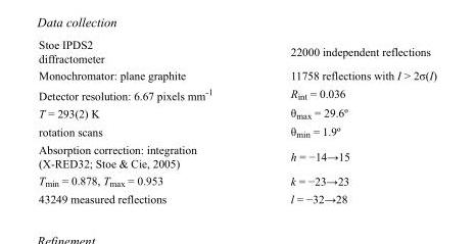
<table><tbody><tr><td>Stoe IPDS2 diffractometer</td><td>22000 independent reflections</td></tr><tr><td>Monochromator: plane graphite</td><td>11758 reflections with I &gt; 2σ(I)</td></tr><tr><td>Detector resolution: 6.67 pixels mm<sup>-1</sup></td><td>R<sub>int</sub> = 0.036</td></tr><tr><td>T = 293(2) K</td><td>θ<sub>max</sub> = 29.6º</td></tr><tr><td>rotation scans</td><td>θ<sub>min</sub> = 1.9º</td></tr><tr><td>Absorption correction: integration (X-RED32; Stoe &amp; Cie, 2005)</td><td>h = −14→15</td></tr><tr><td>T<sub>min</sub> = 0.878, T<sub>max</sub> = 0.953</td><td>k = −23→23</td></tr><tr><td>43249 measured reflections</td><td>l = −32→28</td></tr></tbody></table>